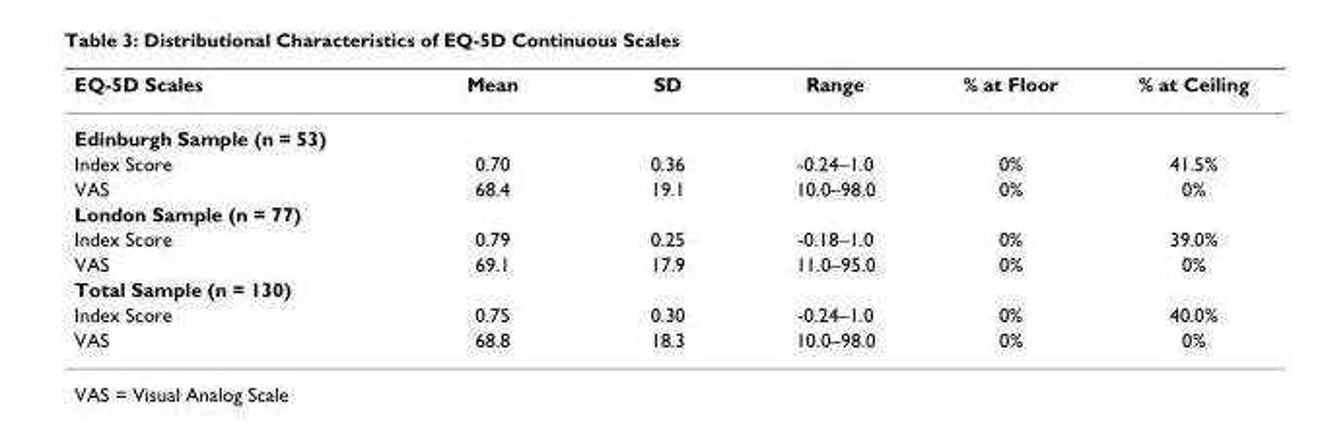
<table><thead><tr><td>EQ-5D Scales</td><td>Mean</td><td>SD</td><td>Range</td><td>% at Floor</td><td>% at Ceiling</td></tr></thead><tbody><tr><td colspan="6">Edinburgh Sample (n = 53)</td></tr><tr><td>Index Score</td><td>0.70</td><td>0.36</td><td>-0.24–1.0</td><td>0%</td><td>41.5%</td></tr><tr><td>VAS</td><td>68.4</td><td>19.1</td><td>10.0–98.0</td><td>0%</td><td>0%</td></tr><tr><td colspan="6">London Sample (n = 77)</td></tr><tr><td>Index Score</td><td>0.79</td><td>0.25</td><td>-0.18–1.0</td><td>0%</td><td>39.0%</td></tr><tr><td>VAS</td><td>69.1</td><td>17.9</td><td>11.0–95.0</td><td>0%</td><td>0%</td></tr><tr><td colspan="6">Total Sample (n = 130)</td></tr><tr><td>Index Score</td><td>0.75</td><td>0.30</td><td>-0.24–1.0</td><td>0%</td><td>40.0%</td></tr><tr><td>VAS</td><td>68.8</td><td>18.3</td><td>10.0–98.0</td><td>0%</td><td>0%</td></tr></tbody></table>